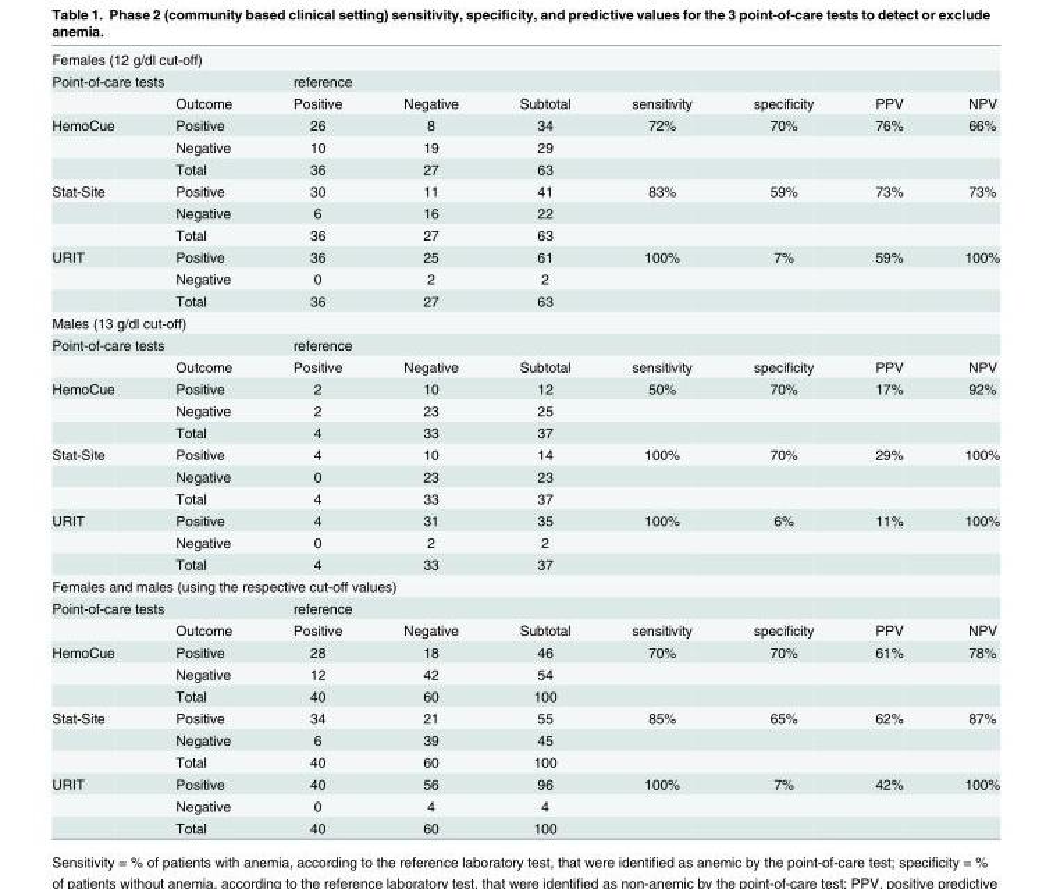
<table><tbody><tr><td colspan="9">Females (12 g/dl cut-off)</td></tr><tr><td colspan="2">Point-of-care tests</td><td colspan="2">reference</td><td></td><td></td><td></td><td></td><td></td></tr><tr><td></td><td>Outcome</td><td>Positive</td><td>Negative</td><td>Subtotal</td><td>sensitivity</td><td>specificity</td><td>PPV</td><td>NPV</td></tr><tr><td rowspan="3">HemoCue</td><td>Positive</td><td>26</td><td>8</td><td>34</td><td>72%</td><td>70%</td><td>76%</td><td>66%</td></tr><tr><td>Negative</td><td>10</td><td>19</td><td>29</td><td></td><td></td><td></td><td></td></tr><tr><td>Total</td><td>36</td><td>27</td><td>63</td><td></td><td></td><td></td><td></td></tr><tr><td rowspan="3">Stat-Site</td><td>Positive</td><td>30</td><td>11</td><td>41</td><td>83%</td><td>59%</td><td>73%</td><td>73%</td></tr><tr><td>Negative</td><td>6</td><td>16</td><td>22</td><td></td><td></td><td></td><td></td></tr><tr><td>Total</td><td>36</td><td>27</td><td>63</td><td></td><td></td><td></td><td></td></tr><tr><td rowspan="3">URIT</td><td>Positive</td><td>36</td><td>25</td><td>61</td><td>100%</td><td>7%</td><td>59%</td><td>100%</td></tr><tr><td>Negative</td><td>0</td><td>2</td><td>2</td><td></td><td></td><td></td><td></td></tr><tr><td>Total</td><td>36</td><td>27</td><td>63</td><td></td><td></td><td></td><td></td></tr><tr><td colspan="9">Males (13 g/dl cut-off)</td></tr><tr><td colspan="2">Point-of-care tests</td><td colspan="2">reference</td><td></td><td></td><td></td><td></td><td></td></tr><tr><td></td><td>Outcome</td><td>Positive</td><td>Negative</td><td>Subtotal</td><td>sensitivity</td><td>specificity</td><td>PPV</td><td>NPV</td></tr><tr><td rowspan="3">HemoCue</td><td>Positive</td><td>2</td><td>10</td><td>12</td><td>50%</td><td>70%</td><td>17%</td><td>92%</td></tr><tr><td>Negative</td><td>2</td><td>23</td><td>25</td><td></td><td></td><td></td><td></td></tr><tr><td>Total</td><td>4</td><td>33</td><td>37</td><td></td><td></td><td></td><td></td></tr><tr><td rowspan="3">Stat-Site</td><td>Positive</td><td>4</td><td>10</td><td>14</td><td>100%</td><td>70%</td><td>29%</td><td>100%</td></tr><tr><td>Negative</td><td>0</td><td>23</td><td>23</td><td></td><td></td><td></td><td></td></tr><tr><td>Total</td><td>4</td><td>33</td><td>37</td><td></td><td></td><td></td><td></td></tr><tr><td rowspan="3">URIT</td><td>Positive</td><td>4</td><td>31</td><td>35</td><td>100%</td><td>6%</td><td>11%</td><td>100%</td></tr><tr><td>Negative</td><td>0</td><td>2</td><td>2</td><td></td><td></td><td></td><td></td></tr><tr><td>Total</td><td>4</td><td>33</td><td>37</td><td></td><td></td><td></td><td></td></tr><tr><td colspan="9">Females and males (using the respective cut-off values)</td></tr><tr><td colspan="2">Point-of-care tests</td><td colspan="2">reference</td><td></td><td></td><td></td><td></td><td></td></tr><tr><td></td><td>Outcome</td><td>Positive</td><td>Negative</td><td>Subtotal</td><td>sensitivity</td><td>specificity</td><td>PPV</td><td>NPV</td></tr><tr><td rowspan="3">HemoCue</td><td>Positive</td><td>28</td><td>18</td><td>46</td><td>70%</td><td>70%</td><td>61%</td><td>78%</td></tr><tr><td>Negative</td><td>12</td><td>42</td><td>54</td><td></td><td></td><td></td><td></td></tr><tr><td>Total</td><td>40</td><td>60</td><td>100</td><td></td><td></td><td></td><td></td></tr><tr><td rowspan="3">Stat-Site</td><td>Positive</td><td>34</td><td>21</td><td>55</td><td>85%</td><td>65%</td><td>62%</td><td>87%</td></tr><tr><td>Negative</td><td>6</td><td>39</td><td>45</td><td></td><td></td><td></td><td></td></tr><tr><td>Total</td><td>40</td><td>60</td><td>100</td><td></td><td></td><td></td><td></td></tr><tr><td rowspan="3">URIT</td><td>Positive</td><td>40</td><td>56</td><td>96</td><td>100%</td><td>7%</td><td>42%</td><td>100%</td></tr><tr><td>Negative</td><td>0</td><td>4</td><td>4</td><td></td><td></td><td></td><td></td></tr><tr><td>Total</td><td>40</td><td>60</td><td>100</td><td></td><td></td><td></td><td></td></tr></tbody></table>